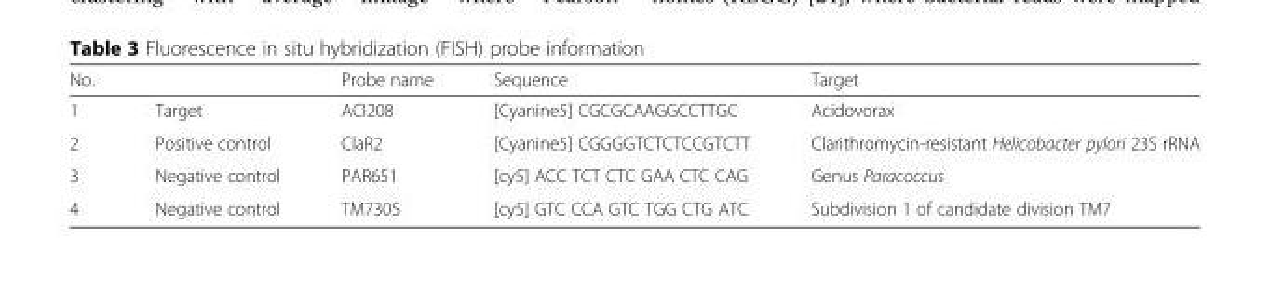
<table><thead><tr><td>No.</td><td></td><td>Probe name</td><td>Sequence</td><td>Target</td></tr></thead><tbody><tr><td>1</td><td>Target</td><td>ACI208</td><td>[Cyanine5] CGCGCAAGGCCTTGC</td><td>Acidovorax</td></tr><tr><td>2</td><td>Positive control</td><td>ClaR2</td><td>[Cyanine5] CGGGGTCTCTCCGTCTT</td><td>Clarithromycin-resistant Helicobacter pylori 23S rRNA</td></tr><tr><td>3</td><td>Negative control</td><td>PAR651</td><td>[cy5] ACC TCT CTC GAA CTC CAG</td><td>Genus Paracoccus</td></tr><tr><td>4</td><td>Negative control</td><td>TM7305</td><td>[cy5] GTC CCA GTC TGG CTG ATC</td><td>Subdivision 1 of candidate division TM7</td></tr></tbody></table>